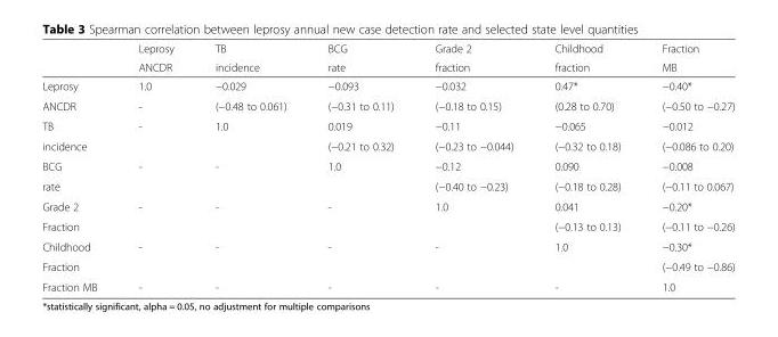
<table><thead><tr><td rowspan="2"></td><td rowspan="2">Leprosy ANCDR</td><td rowspan="2">TB incidence</td><td rowspan="2">BCG rate</td><td rowspan="2">Grade 2 fraction</td><td rowspan="2">Childhood fraction</td><td rowspan="2">Fraction MB</td></tr><tr></tr></thead><tbody><tr><td>Leprosy</td><td>1.0</td><td>−0.029</td><td>−0.093</td><td>−0.032</td><td>0.47*</td><td>−0.40*</td></tr><tr><td>ANCDR</td><td>-</td><td>(−0.48 to 0.061)</td><td>(−0.31 to 0.11)</td><td>(−0.18 to 0.15)</td><td>(0.28 to 0.70)</td><td>(−0.50 to −0.27)</td></tr><tr><td>TB</td><td rowspan="2">-</td><td rowspan="2">1.0</td><td>0.019</td><td>−0.11</td><td>−0.065</td><td>−0.012</td></tr><tr><td>incidence</td><td>(−0.21 to 0.32)</td><td>(−0.23 to −0.044)</td><td>(−0.32 to 0.18)</td><td>(−0.086 to 0.20)</td></tr><tr><td>BCG</td><td rowspan="2">-</td><td rowspan="2">-</td><td rowspan="2">1.0</td><td>−0.12</td><td>0.090</td><td>−0.008</td></tr><tr><td>rate</td><td>(−0.40 to −0.23)</td><td>(−0.18 to 0.28)</td><td>(−0.11 to 0.067)</td></tr><tr><td>Grade 2</td><td rowspan="2">-</td><td rowspan="2">-</td><td rowspan="2">-</td><td rowspan="2">1.0</td><td>0.041</td><td>−0.20*</td></tr><tr><td>Fraction</td><td>(−0.13 to 0.13)</td><td>(−0.11 to −0.26)</td></tr><tr><td>Childhood</td><td rowspan="2">-</td><td rowspan="2">-</td><td rowspan="2">-</td><td rowspan="2">-</td><td rowspan="2">1.0</td><td>−0.30*</td></tr><tr><td>Fraction</td><td>(−0.49 to −0.86)</td></tr><tr><td>Fraction MB</td><td>-</td><td>-</td><td>-</td><td>-</td><td>-</td><td>1.0</td></tr></tbody></table>